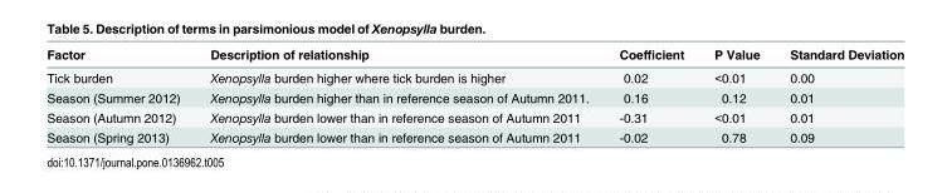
<table><thead><tr><td>Factor</td><td>Description of relationship</td><td>Coefficient</td><td>P Value</td><td>Standard Deviation</td></tr></thead><tbody><tr><td>Tick burden</td><td>Xenopsylla burden higher where tick burden is higher</td><td>0.02</td><td>&lt;0.01</td><td>0.00</td></tr><tr><td>Season (Summer 2012)</td><td>Xenopsylla burden higher than in reference season of Autumn 2011.</td><td>0.16</td><td>0.12</td><td>0.01</td></tr><tr><td>Season (Autumn 2012)</td><td>Xenopsylla burden lower than in reference season of Autumn 2011</td><td>-0.31</td><td>&lt;0.01</td><td>0.01</td></tr><tr><td>Season (Spring 2013)</td><td>Xenopsylla burden lower than in reference season of Autumn 2011</td><td>-0.02</td><td>0.78</td><td>0.09</td></tr></tbody></table>